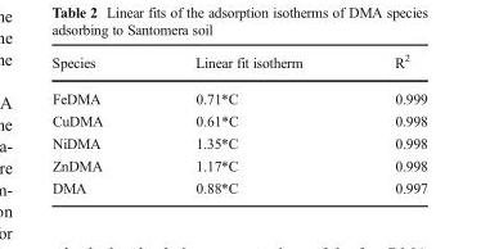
<table><thead><tr><td>Species</td><td>Linear fit isotherm</td><td>R<sup>2</sup></td></tr></thead><tbody><tr><td>FeDMA</td><td>0.71*C</td><td>0.999</td></tr><tr><td>CuDMA</td><td>0.61*C</td><td>0.998</td></tr><tr><td>NiDMA</td><td>1.35*C</td><td>0.998</td></tr><tr><td>ZnDMA</td><td>1.17*C</td><td>0.998</td></tr><tr><td>DMA</td><td>0.88*C</td><td>0.997</td></tr></tbody></table>